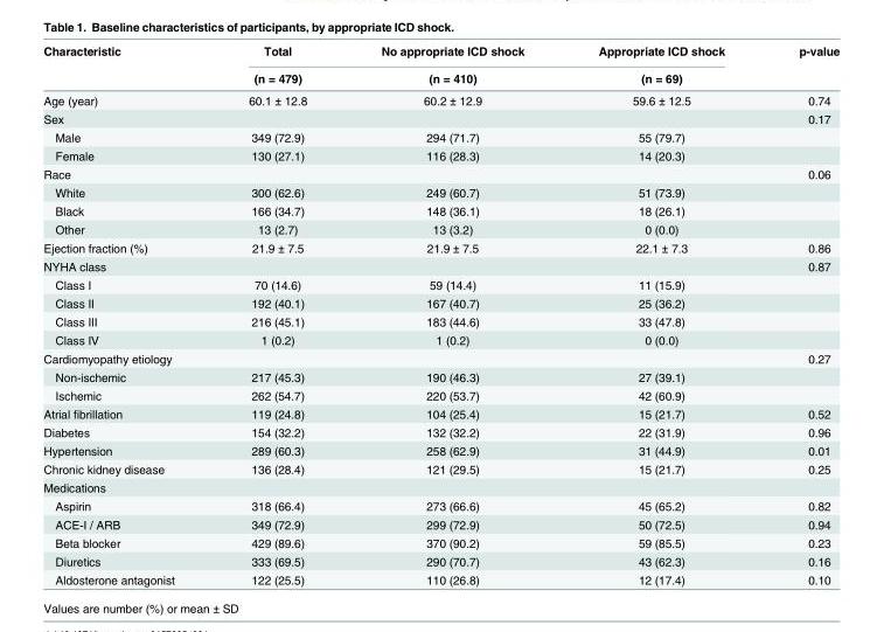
<table><thead><tr><td rowspan="2">Characteristic</td><td rowspan="2">Total (n = 479)</td><td rowspan="2">No appropriate ICD shock (n = 410)</td><td rowspan="2">Appropriate ICD shock (n = 69)</td><td rowspan="2">p-value</td></tr><tr></tr></thead><tbody><tr><td>Age (year)</td><td>60.1 ± 12.8</td><td>60.2 ± 12.9</td><td>59.6 ± 12.5</td><td>0.74</td></tr><tr><td>Sex</td><td></td><td></td><td></td><td>0.17</td></tr><tr><td>Male</td><td>349 (72.9)</td><td>294 (71.7)</td><td>55 (79.7)</td><td></td></tr><tr><td>Female</td><td>130 (27.1)</td><td>116 (28.3)</td><td>14 (20.3)</td><td></td></tr><tr><td>Race</td><td></td><td></td><td></td><td>0.06</td></tr><tr><td>White</td><td>300 (62.6)</td><td>249 (60.7)</td><td>51 (73.9)</td><td></td></tr><tr><td>Black</td><td>166 (34.7)</td><td>148 (36.1)</td><td>18 (26.1)</td><td></td></tr><tr><td>Other</td><td>13 (2.7)</td><td>13 (3.2)</td><td>0 (0.0)</td><td></td></tr><tr><td>Ejection fraction (%)</td><td>21.9 ± 7.5</td><td>21.9 ± 7.5</td><td>22.1 ± 7.3</td><td>0.86</td></tr><tr><td>NYHA class</td><td></td><td></td><td></td><td>0.87</td></tr><tr><td>Class I</td><td>70 (14.6)</td><td>59 (14.4)</td><td>11 (15.9)</td><td></td></tr><tr><td>Class II</td><td>192 (40.1)</td><td>167 (40.7)</td><td>25 (36.2)</td><td></td></tr><tr><td>Class III</td><td>216 (45.1)</td><td>183 (44.6)</td><td>33 (47.8)</td><td></td></tr><tr><td>Class IV</td><td>1 (0.2)</td><td>1 (0.2)</td><td>0 (0.0)</td><td></td></tr><tr><td>Cardiomyopathy etiology</td><td></td><td></td><td></td><td>0.27</td></tr><tr><td>Non-ischemic</td><td>217 (45.3)</td><td>190 (46.3)</td><td>27 (39.1)</td><td></td></tr><tr><td>Ischemic</td><td>262 (54.7)</td><td>220 (53.7)</td><td>42 (60.9)</td><td></td></tr><tr><td>Atrial fibrillation</td><td>119 (24.8)</td><td>104 (25.4)</td><td>15 (21.7)</td><td>0.52</td></tr><tr><td>Diabetes</td><td>154 (32.2)</td><td>132 (32.2)</td><td>22 (31.9)</td><td>0.96</td></tr><tr><td>Hypertension</td><td>289 (60.3)</td><td>258 (62.9)</td><td>31 (44.9)</td><td>0.01</td></tr><tr><td>Chronic kidney disease</td><td>136 (28.4)</td><td>121 (29.5)</td><td>15 (21.7)</td><td>0.25</td></tr><tr><td colspan="5">Medications</td></tr><tr><td>Aspirin</td><td>318 (66.4)</td><td>273 (66.6)</td><td>45 (65.2)</td><td>0.82</td></tr><tr><td>ACE-I / ARB</td><td>349 (72.9)</td><td>299 (72.9)</td><td>50 (72.5)</td><td>0.94</td></tr><tr><td>Beta blocker</td><td>429 (89.6)</td><td>370 (90.2)</td><td>59 (85.5)</td><td>0.23</td></tr><tr><td>Diuretics</td><td>333 (69.5)</td><td>290 (70.7)</td><td>43 (62.3)</td><td>0.16</td></tr><tr><td>Aldosterone antagonist</td><td>122 (25.5)</td><td>110 (26.8)</td><td>12 (17.4)</td><td>0.10</td></tr></tbody></table>